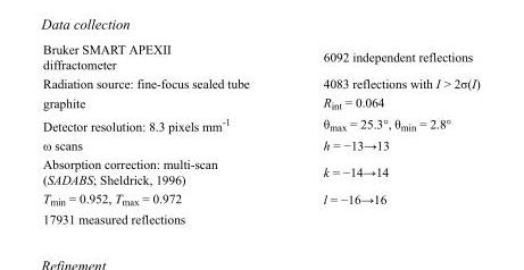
<table><tbody><tr><td>Bruker SMART APEXII diffractometer</td><td>6092 independent reflections</td></tr><tr><td>Radiation source: fine-focus sealed tube</td><td>4083 reflections with I &gt; 2σ(I)</td></tr><tr><td>graphite</td><td>R<sub>int</sub> = 0.064</td></tr><tr><td>Detector resolution: 8.3 pixels mm<sup>-1</sup></td><td>θ<sub>max</sub> = 25.3°, θ<sub>min</sub> = 2.8°</td></tr><tr><td>ω scans</td><td>h = −13→13</td></tr><tr><td>Absorption correction: multi-scan (SADABS; Sheldrick, 1996)</td><td>k = −14→14</td></tr><tr><td>T<sub>min</sub> = 0.952, T<sub>max</sub> = 0.972</td><td>l = −16→16</td></tr><tr><td>17931 measured reflections</td><td></td></tr></tbody></table>